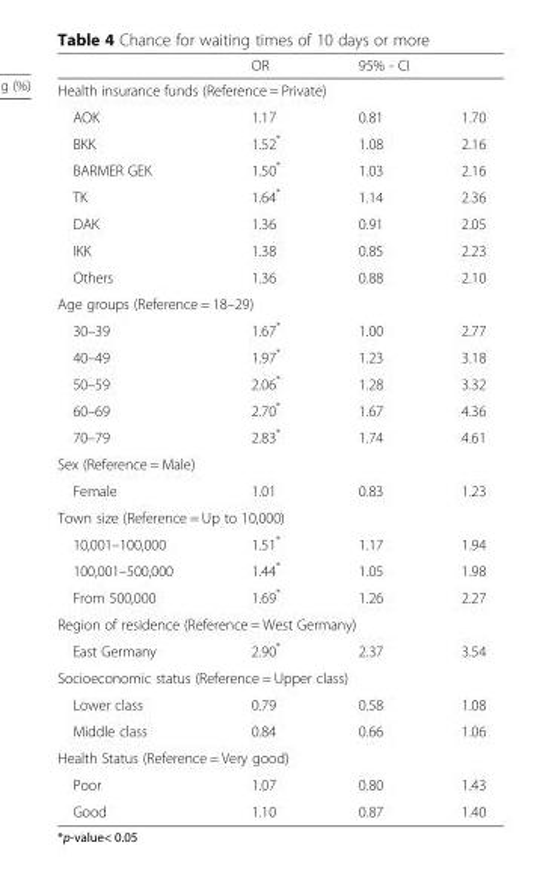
<table><thead><tr><td></td><td>OR</td><td colspan="2">95% - CI</td></tr><tr><td colspan="4">Health insurance funds (Reference = Private)</td></tr><tr><td>AOK</td><td>1.17</td><td>0.81</td><td>1.70</td></tr></thead><tbody><tr><td>BKK</td><td>1.52*</td><td>1.08</td><td>2.16</td></tr><tr><td>BARMER GEK</td><td>1.50*</td><td>1.03</td><td>2.16</td></tr><tr><td>TK</td><td>1.64*</td><td>1.14</td><td>2.36</td></tr><tr><td>DAK</td><td>1.36</td><td>0.91</td><td>2.05</td></tr><tr><td>IKK</td><td>1.38</td><td>0.85</td><td>2.23</td></tr><tr><td>Others</td><td>1.36</td><td>0.88</td><td>2.10</td></tr><tr><td colspan="4">Age groups (Reference = 18–29)</td></tr><tr><td>30–39</td><td>1.67*</td><td>1.00</td><td>2.77</td></tr><tr><td>40–49</td><td>1.97*</td><td>1.23</td><td>3.18</td></tr><tr><td>50–59</td><td>2.06*</td><td>1.28</td><td>3.32</td></tr><tr><td>60–69</td><td>2.70*</td><td>1.67</td><td>4.36</td></tr><tr><td>70–79</td><td>2.83*</td><td>1.74</td><td>4.61</td></tr><tr><td colspan="4">Sex (Reference = Male)</td></tr><tr><td>Female</td><td>1.01</td><td>0.83</td><td>1.23</td></tr><tr><td colspan="4">Town size (Reference = Up to 10,000)</td></tr><tr><td>10,001–100,000</td><td>1.51*</td><td>1.17</td><td>1.94</td></tr><tr><td>100,001–500,000</td><td>1.44*</td><td>1.05</td><td>1.98</td></tr><tr><td>From 500,000</td><td>1.69*</td><td>1.26</td><td>2.27</td></tr><tr><td colspan="4">Region of residence (Reference = West Germany)</td></tr><tr><td>East Germany</td><td>2.90*</td><td>2.37</td><td>3.54</td></tr><tr><td colspan="4">Socioeconomic status (Reference = Upper class)</td></tr><tr><td>Lower class</td><td>0.79</td><td>0.58</td><td>1.08</td></tr><tr><td>Middle class</td><td>0.84</td><td>0.66</td><td>1.06</td></tr><tr><td colspan="4">Health Status (Reference = Very good)</td></tr><tr><td>Poor</td><td>1.07</td><td>0.80</td><td>1.43</td></tr><tr><td>Good</td><td>1.10</td><td>0.87</td><td>1.40</td></tr></tbody></table>